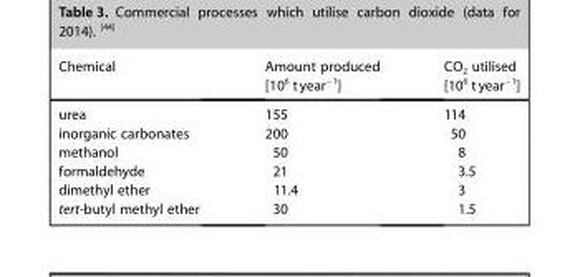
<table><thead><tr><td>Chemical</td><td>Amount produced [10<sup>6</sup> tyear<sup>−1</sup>]</td><td>CO<sub>2</sub> utilised [10<sup>6</sup> tyear<sup>−1</sup>]</td></tr></thead><tbody><tr><td>urea</td><td>155</td><td>114</td></tr><tr><td>inorganic carbonates</td><td>200</td><td>50</td></tr><tr><td>methanol</td><td>50</td><td>8</td></tr><tr><td>formaldehyde</td><td>21</td><td>3.5</td></tr><tr><td>dimethyl ether</td><td>11.4</td><td>3</td></tr><tr><td>tert-butyl methyl ether</td><td>30</td><td>1.5</td></tr></tbody></table>